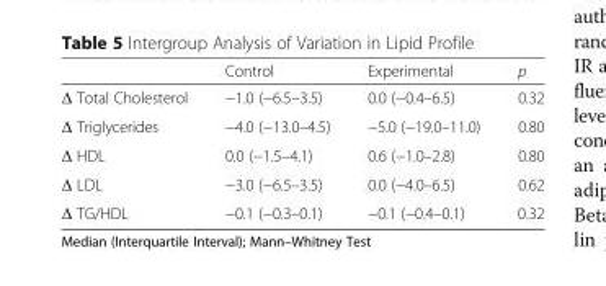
<table><thead><tr><td></td><td>Control</td><td>Experimental</td><td>p</td></tr></thead><tbody><tr><td>Δ Total Cholesterol</td><td>−1.0 (−6.5–3.5)</td><td>0.0 (−0.4–6.5)</td><td>0.32</td></tr><tr><td>Δ Triglycerides</td><td>−4.0 (−13.0–4.5)</td><td>−5.0 (−19.0–11.0)</td><td>0.80</td></tr><tr><td>Δ HDL</td><td>0.0 (−1.5–4.1)</td><td>0.6 (−1.0–2.8)</td><td>0.80</td></tr><tr><td>Δ LDL</td><td>−3.0 (−6.5–3.5)</td><td>0.0 (−4.0–6.5)</td><td>0.62</td></tr><tr><td>Δ TG/HDL</td><td>−0.1 (−0.3–0.1)</td><td>−0.1 (−0.4–0.1)</td><td>0.32</td></tr></tbody></table>